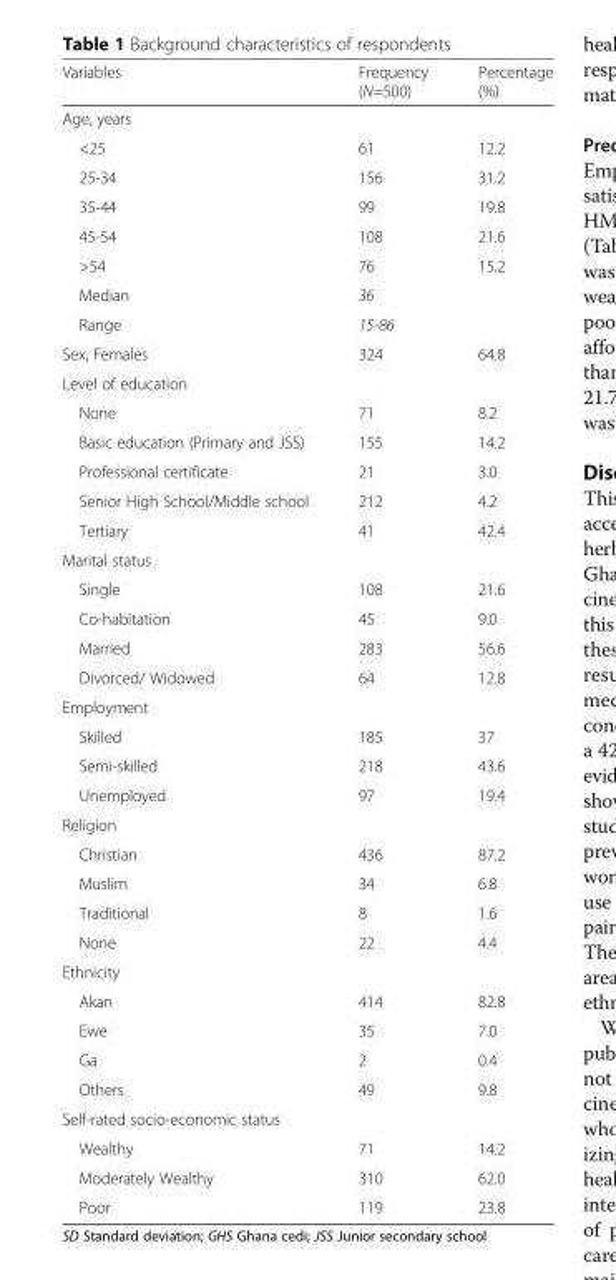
<table><thead><tr><td>Variables</td><td>Frequency (N=500)</td><td>Percentage (%)</td></tr></thead><tbody><tr><td colspan="3">Age, years</td></tr><tr><td>&lt;25</td><td>61</td><td>12.2</td></tr><tr><td>25-34</td><td>156</td><td>31.2</td></tr><tr><td>35-44</td><td>99</td><td>19.8</td></tr><tr><td>45-54</td><td>108</td><td>21.6</td></tr><tr><td>&gt;54</td><td>76</td><td>15.2</td></tr><tr><td>Median</td><td>36</td><td></td></tr><tr><td>Range</td><td>15-86</td><td></td></tr><tr><td>Sex, Females</td><td>324</td><td>64.8</td></tr><tr><td colspan="3">Level of education</td></tr><tr><td>None</td><td>71</td><td>8.2</td></tr><tr><td>Basic education (Primary and JSS)</td><td>155</td><td>14.2</td></tr><tr><td>Professional certificate</td><td>21</td><td>3.0</td></tr><tr><td>Senior High School/Middle school</td><td>212</td><td>4.2</td></tr><tr><td>Tertiary</td><td>41</td><td>42.4</td></tr><tr><td colspan="3">Marital status</td></tr><tr><td>Single</td><td>108</td><td>21.6</td></tr><tr><td>Co-habitation</td><td>45</td><td>9.0</td></tr><tr><td>Married</td><td>283</td><td>56.6</td></tr><tr><td>Divorced/ Widowed</td><td>64</td><td>12.8</td></tr><tr><td colspan="3">Employment</td></tr><tr><td>Skilled</td><td>185</td><td>37</td></tr><tr><td>Semi-skilled</td><td>218</td><td>43.6</td></tr><tr><td>Unemployed</td><td>97</td><td>19.4</td></tr><tr><td colspan="3">Religion</td></tr><tr><td>Christian</td><td>436</td><td>87.2</td></tr><tr><td>Muslim</td><td>34</td><td>6.8</td></tr><tr><td>Traditional</td><td>8</td><td>1.6</td></tr><tr><td>None</td><td>22</td><td>4.4</td></tr><tr><td colspan="3">Ethnicity</td></tr><tr><td>Akan</td><td>414</td><td>82.8</td></tr><tr><td>Ewe</td><td>35</td><td>7.0</td></tr><tr><td>Ga</td><td>2</td><td>0.4</td></tr><tr><td>Others</td><td>49</td><td>9.8</td></tr><tr><td colspan="3">Self-rated socio-economic status</td></tr><tr><td>Wealthy</td><td>71</td><td>14.2</td></tr><tr><td>Moderately Wealthy</td><td>310</td><td>62.0</td></tr><tr><td>Poor</td><td>119</td><td>23.8</td></tr></tbody></table>